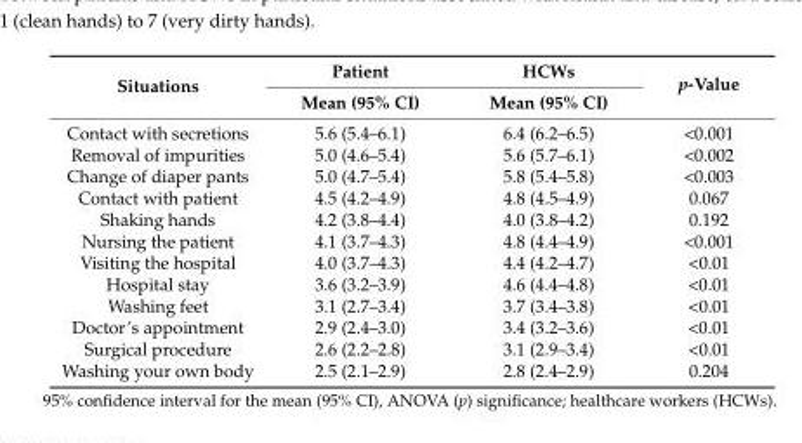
<table><thead><tr><td rowspan="2">Situations</td><td rowspan="2">Patient Mean (95% CI)</td><td rowspan="2">HCWs Mean (95% CI)</td><td rowspan="2">p-Value</td></tr><tr></tr></thead><tbody><tr><td>Contact with secretions</td><td>5.6 (5.4–6.1)</td><td>6.4 (6.2–6.5)</td><td>&lt;0.001</td></tr><tr><td>Removal of impurities</td><td>5.0 (4.6–5.4)</td><td>5.6 (5.7–6.1)</td><td>&lt;0.002</td></tr><tr><td>Change of diaper pants</td><td>5.0 (4.7–5.4)</td><td>5.8 (5.4–5.8)</td><td>&lt;0.003</td></tr><tr><td>Contact with patient</td><td>4.5 (4.2–4.9)</td><td>4.8 (4.5–4.9)</td><td>0.067</td></tr><tr><td>Shaking hands</td><td>4.2 (3.8–4.4)</td><td>4.0 (3.8–4.2)</td><td>0.192</td></tr><tr><td>Nursing the patient</td><td>4.1 (3.7–4.3)</td><td>4.8 (4.4–4.9)</td><td>&lt;0.001</td></tr><tr><td>Visiting the hospital</td><td>4.0 (3.7–4.3)</td><td>4.4 (4.2–4.7)</td><td>&lt;0.01</td></tr><tr><td>Hospital stay</td><td>3.6 (3.2–3.9)</td><td>4.6 (4.4–4.8)</td><td>&lt;0.01</td></tr><tr><td>Washing feet</td><td>3.1 (2.7–3.4)</td><td>3.7 (3.4–3.8)</td><td>&lt;0.01</td></tr><tr><td>Doctor’s appointment</td><td>2.9 (2.4–3.0)</td><td>3.4 (3.2–3.6)</td><td>&lt;0.01</td></tr><tr><td>Surgical procedure</td><td>2.6 (2.2–2.8)</td><td>3.1 (2.9–3.4)</td><td>&lt;0.01</td></tr><tr><td>Washing your own body</td><td>2.5 (2.1–2.9)</td><td>2.8 (2.4–2.9)</td><td>0.204</td></tr></tbody></table>